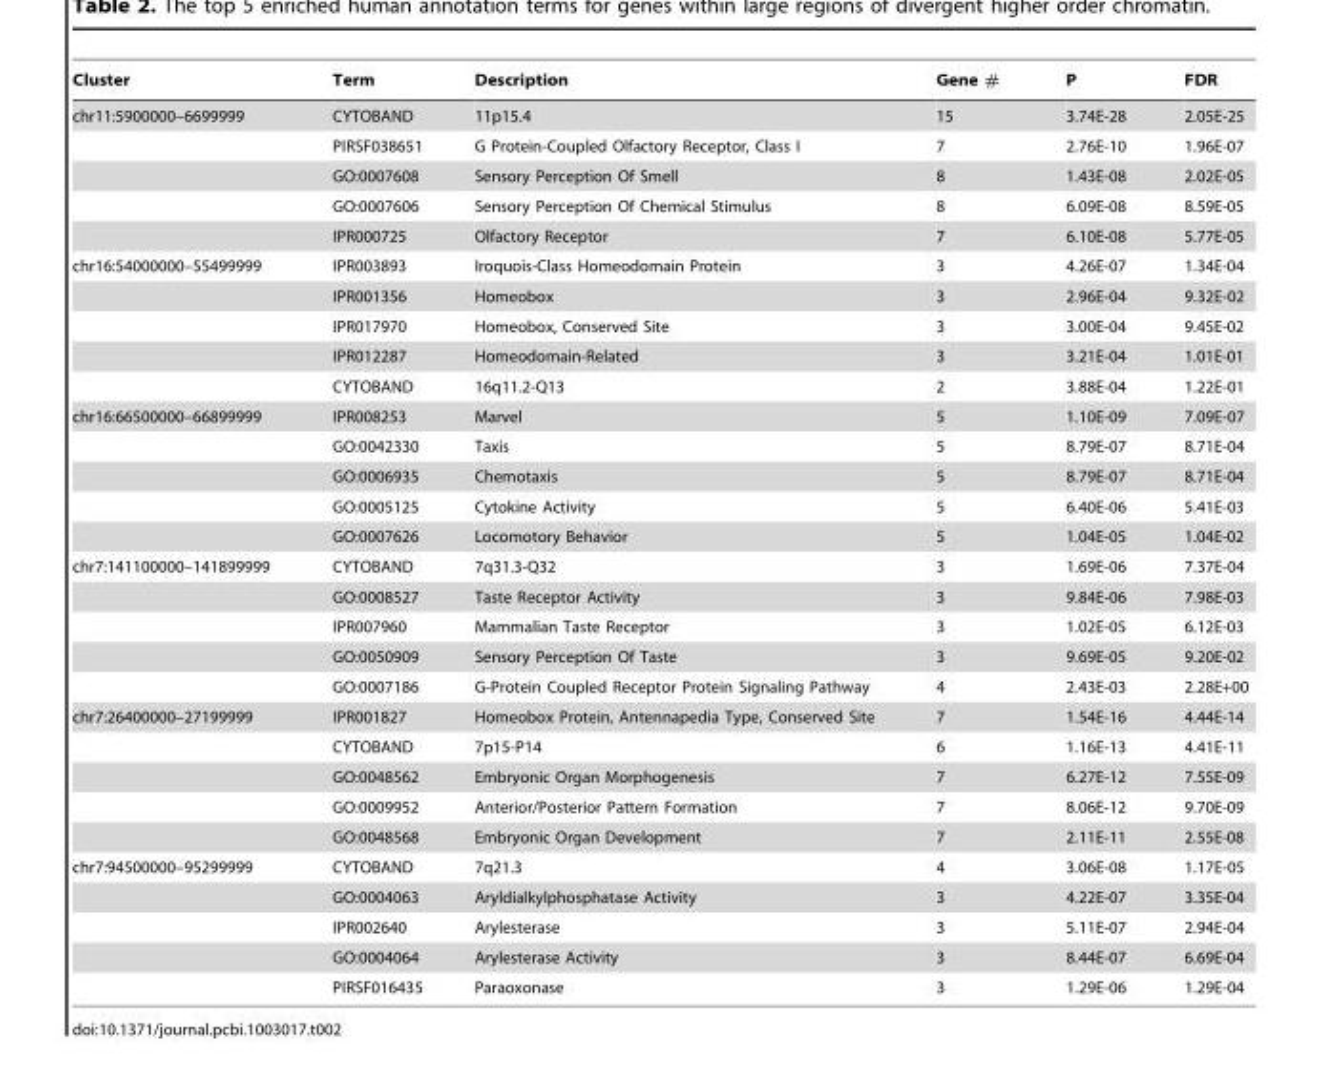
<table><thead><tr><td>Cluster</td><td>Term</td><td>Description</td><td>Gene #</td><td>P</td><td>FDR</td></tr></thead><tbody><tr><td rowspan="5">chr11:5900000–6699999</td><td>CYTOBAND</td><td>11p15.4</td><td>15</td><td>3.74E-28</td><td>2.05E-25</td></tr><tr><td>PIRSF038651</td><td>G Protein-Coupled Olfactory Receptor, Class I</td><td>7</td><td>2.76E-10</td><td>1.96E-07</td></tr><tr><td>GO:0007608</td><td>Sensory Perception Of Smell</td><td>8</td><td>1.43E-08</td><td>2.02E-05</td></tr><tr><td>GO:0007606</td><td>Sensory Perception Of Chemical Stimulus</td><td>8</td><td>6.09E-08</td><td>8.59E-05</td></tr><tr><td>IPR000725</td><td>Olfactory Receptor</td><td>7</td><td>6.10E-08</td><td>5.77E-05</td></tr><tr><td rowspan="5">chr16:54000000–55499999</td><td>IPR003893</td><td>Iroquois-Class Homeodomain Protein</td><td>3</td><td>4.26E-07</td><td>1.34E-04</td></tr><tr><td>IPR001356</td><td>Homeobox</td><td>3</td><td>2.96E-04</td><td>9.32E-02</td></tr><tr><td>IPR017970</td><td>Homeobox, Conserved Site</td><td>3</td><td>3.00E-04</td><td>9.45E-02</td></tr><tr><td>IPR012287</td><td>Homeodomain-Related</td><td>3</td><td>3.21E-04</td><td>1.01E-01</td></tr><tr><td>CYTOBAND</td><td>16q11.2-Q13</td><td>2</td><td>3.88E-04</td><td>1.22E-01</td></tr><tr><td rowspan="5">chr16:66500000–66899999</td><td>IPR008253</td><td>Marvel</td><td>5</td><td>1.10E-09</td><td>7.09E-07</td></tr><tr><td>GO:0042330</td><td>Taxis</td><td>5</td><td>8.79E-07</td><td>8.71E-04</td></tr><tr><td>GO:0006935</td><td>Chemotaxis</td><td>5</td><td>8.79E-07</td><td>8.71E-04</td></tr><tr><td>GO:0005125</td><td>Cytokine Activity</td><td>5</td><td>6.40E-06</td><td>5.41E-03</td></tr><tr><td>GO:0007626</td><td>Locomotory Behavior</td><td>5</td><td>1.04E-05</td><td>1.04E-02</td></tr><tr><td rowspan="5">chr7:141100000–141899999</td><td>CYTOBAND</td><td>7q31.3-Q32</td><td>3</td><td>1.69E-06</td><td>7.37E-04</td></tr><tr><td>GO:0008527</td><td>Taste Receptor Activity</td><td>3</td><td>9.84E-06</td><td>7.98E-03</td></tr><tr><td>IPR007960</td><td>Mammalian Taste Receptor</td><td>3</td><td>1.02E-05</td><td>6.12E-03</td></tr><tr><td>GO:0050909</td><td>Sensory Perception Of Taste</td><td>3</td><td>9.69E-05</td><td>9.20E-02</td></tr><tr><td>GO:0007186</td><td>G-Protein Coupled Receptor Protein Signaling Pathway</td><td>4</td><td>2.43E-03</td><td>2.28E+00</td></tr><tr><td rowspan="5">chr7:26400000–27199999</td><td>IPR001827</td><td>Homeobox Protein, Antennapedia Type, Conserved Site</td><td>7</td><td>1.54E-16</td><td>4.44E-14</td></tr><tr><td>CYTOBAND</td><td>7p15-P14</td><td>6</td><td>1.16E-13</td><td>4.41E-11</td></tr><tr><td>GO:0048562</td><td>Embryonic Organ Morphogenesis</td><td>7</td><td>6.27E-12</td><td>7.55E-09</td></tr><tr><td>GO:0009952</td><td>Anterior/Posterior Pattern Formation</td><td>7</td><td>8.06E-12</td><td>9.70E-09</td></tr><tr><td>GO:0048568</td><td>Embryonic Organ Development</td><td>7</td><td>2.11E-11</td><td>2.55E-08</td></tr><tr><td rowspan="5">chr7:94500000–95299999</td><td>CYTOBAND</td><td>7q21.3</td><td>4</td><td>3.06E-08</td><td>1.17E-05</td></tr><tr><td>GO:0004063</td><td>Aryldialkylphosphatase Activity</td><td>3</td><td>4.22E-07</td><td>3.35E-04</td></tr><tr><td>IPR002640</td><td>Arylesterase</td><td>3</td><td>5.11E-07</td><td>2.94E-04</td></tr><tr><td>GO:0004064</td><td>Arylesterase Activity</td><td>3</td><td>8.44E-07</td><td>6.69E-04</td></tr><tr><td>PIRSF016435</td><td>Paraoxonase</td><td>3</td><td>1.29E-06</td><td>1.29E-04</td></tr></tbody></table>